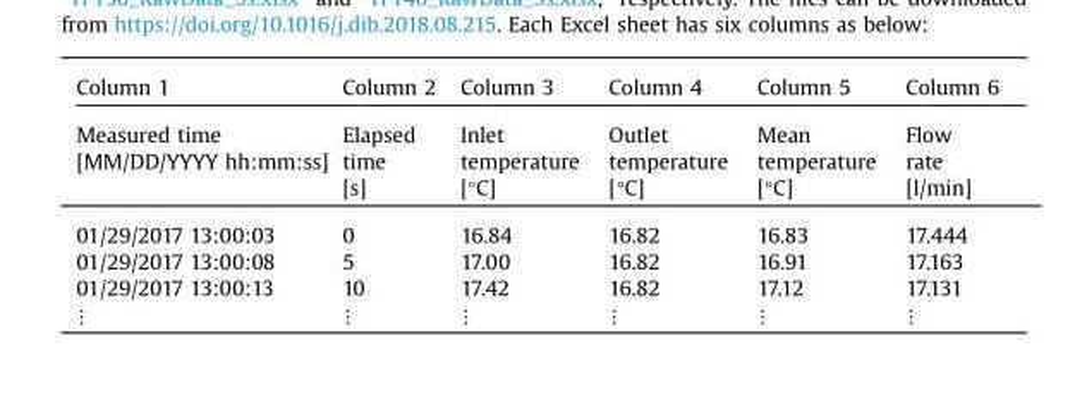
<table><thead><tr><td rowspan="2">Column 1 Measured time [MM/DD/YYYY hh:mm:ss]</td><td rowspan="2">Column 2 Elapsed time [s]</td><td rowspan="2">Column 3 Inlet temperature [°C]</td><td rowspan="2">Column 4 Outlet temperature [°C]</td><td rowspan="2">Column 5 Mean temperature [°C]</td><td rowspan="2">Column 6 Flow rate [l/min]</td></tr><tr></tr></thead><tbody><tr><td>01/29/2017 13:00:03</td><td>0</td><td>16.84</td><td>16.82</td><td>16.83</td><td>17.444</td></tr><tr><td>01/29/2017 13:00:08</td><td>5</td><td>17.00</td><td>16.82</td><td>16.91</td><td>17.163</td></tr><tr><td>01/29/2017 13:00:13</td><td>10</td><td>17.42</td><td>16.82</td><td>17.12</td><td>17.131</td></tr><tr><td>⋮</td><td>⋮</td><td>⋮</td><td>⋮</td><td>⋮</td><td>⋮</td></tr></tbody></table>